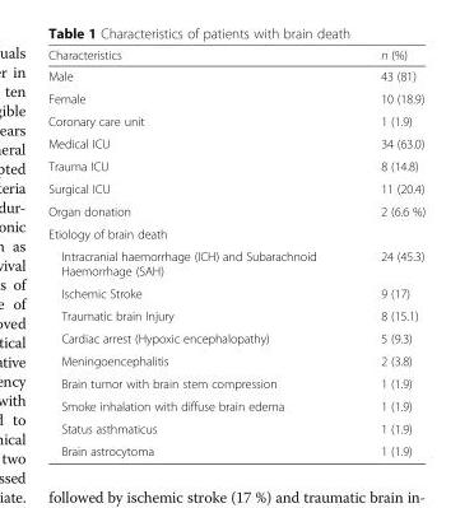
<table><thead><tr><td>Characteristics</td><td>n (%)</td></tr></thead><tbody><tr><td>Male</td><td>43 (81)</td></tr><tr><td>Female</td><td>10 (18.9)</td></tr><tr><td>Coronary care unit</td><td>1 (1.9)</td></tr><tr><td>Medical ICU</td><td>34 (63.0)</td></tr><tr><td>Trauma ICU</td><td>8 (14.8)</td></tr><tr><td>Surgical ICU</td><td>11 (20.4)</td></tr><tr><td>Organ donation</td><td>2 (6.6 %)</td></tr><tr><td colspan="2">Etiology of brain death</td></tr><tr><td>Intracranial haemorrhage (ICH) and Subarachnoid Haemorrhage (SAH)</td><td>24 (45.3)</td></tr><tr><td>Ischemic Stroke</td><td>9 (17)</td></tr><tr><td>Traumatic brain Injury</td><td>8 (15.1)</td></tr><tr><td>Cardiac arrest (Hypoxic encephalopathy)</td><td>5 (9.3)</td></tr><tr><td>Meningoencephalitis</td><td>2 (3.8)</td></tr><tr><td>Brain tumor with brain stem compression</td><td>1 (1.9)</td></tr><tr><td>Smoke inhalation with diffuse brain edema</td><td>1 (1.9)</td></tr><tr><td>Status asthmaticus</td><td>1 (1.9)</td></tr><tr><td>Brain astrocytoma</td><td>1 (1.9)</td></tr></tbody></table>